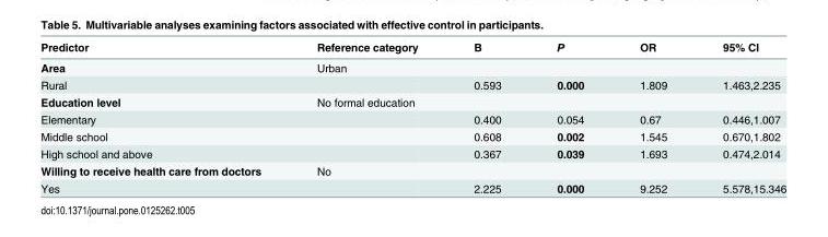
<table><thead><tr><td>Predictor</td><td>Reference category</td><td>B</td><td>P</td><td>OR</td><td>95% CI</td></tr></thead><tbody><tr><td>Area</td><td>Urban</td><td></td><td></td><td></td><td></td></tr><tr><td>Rural</td><td></td><td>0.593</td><td>0.000</td><td>1.809</td><td>1.463,2.235</td></tr><tr><td>Education level</td><td>No formal education</td><td></td><td></td><td></td><td></td></tr><tr><td>Elementary</td><td></td><td>0.400</td><td>0.054</td><td>0.67</td><td>0.446,1.007</td></tr><tr><td>Middle school</td><td></td><td>0.608</td><td>0.002</td><td>1.545</td><td>0.670,1.802</td></tr><tr><td>High school and above</td><td></td><td>0.367</td><td>0.039</td><td>1.693</td><td>0.474,2.014</td></tr><tr><td>Willing to receive health care from doctors</td><td>No</td><td></td><td></td><td></td><td></td></tr><tr><td>Yes</td><td></td><td>2.225</td><td>0.000</td><td>9.252</td><td>5.578,15.346</td></tr></tbody></table>